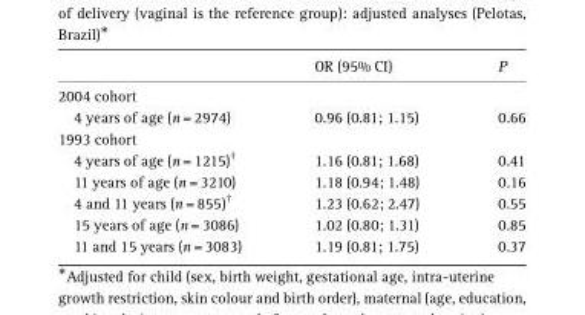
<table><thead><tr><td></td><td>OR (95% CI)</td><td>P</td></tr></thead><tbody><tr><td colspan="3">2004 cohort</td></tr><tr><td>4 years of age (n = 2974)</td><td>0.96 (0.81; 1.15)</td><td>0.66</td></tr><tr><td colspan="3">1993 cohort</td></tr><tr><td>4 years of age (n = 1215)†</td><td>1.16 (0.81; 1.68)</td><td>0.41</td></tr><tr><td>11 years of age (n = 3210)</td><td>1.18 (0.94; 1.48)</td><td>0.16</td></tr><tr><td>4 and 11 years (n = 855)†</td><td>1.23 (0.62; 2.47)</td><td>0.55</td></tr><tr><td>15 years of age (n = 3086)</td><td>1.02 (0.80; 1.31)</td><td>0.85</td></tr><tr><td>11 and 15 years (n = 3083)</td><td>1.19 (0.81; 1.75)</td><td>0.37</td></tr></tbody></table>